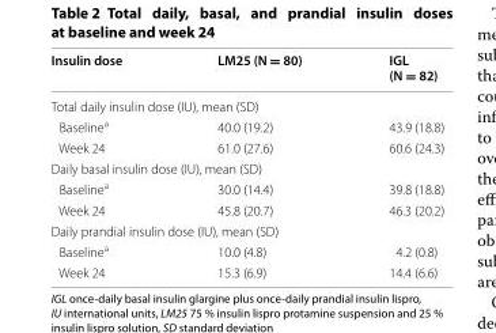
<table><thead><tr><td>Insulin dose</td><td>LM25 (N = 80)</td><td>IGL (N = 82)</td></tr></thead><tbody><tr><td colspan="3">Total daily insulin dose (IU), mean (SD)</td></tr><tr><td>Baseline<sup>a</sup></td><td>40.0 (19.2)</td><td>43.9 (18.8)</td></tr><tr><td>Week 24</td><td>61.0 (27.6)</td><td>60.6 (24.3)</td></tr><tr><td colspan="3">Daily basal insulin dose (IU), mean (SD)</td></tr><tr><td>Baseline<sup>a</sup></td><td>30.0 (14.4)</td><td>39.8 (18.8)</td></tr><tr><td>Week 24</td><td>45.8 (20.7)</td><td>46.3 (20.2)</td></tr><tr><td colspan="3">Daily prandial insulin dose (IU), mean (SD)</td></tr><tr><td>Baseline<sup>a</sup></td><td>10.0 (4.8)</td><td>4.2 (0.8)</td></tr><tr><td>Week 24</td><td>15.3 (6.9)</td><td>14.4 (6.6)</td></tr></tbody></table>